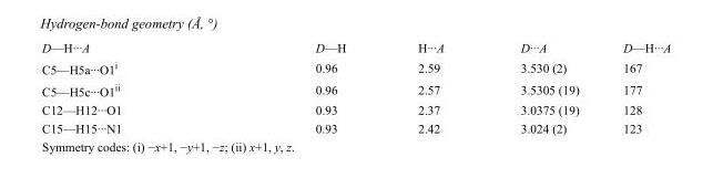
<table><tbody><tr><td>D—H···A</td><td>D—H</td><td>H···A</td><td>D···A</td><td>D—H···A</td></tr><tr><td>C5—H5a···O1<sup>i</sup></td><td>0.96</td><td>2.59</td><td>3.530 (2)</td><td>167</td></tr><tr><td>C5—H5c···O1<sup>ii</sup></td><td>0.96</td><td>2.57</td><td>3.5305 (19)</td><td>177</td></tr><tr><td>C12—H12···O1</td><td>0.93</td><td>2.37</td><td>3.0375 (19)</td><td>128</td></tr><tr><td>C15—H15···N1</td><td>0.93</td><td>2.42</td><td>3.024 (2)</td><td>123</td></tr></tbody></table>